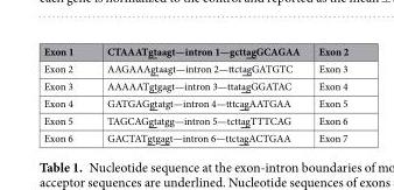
<table><thead><tr><td>Exon 1</td><td>CTAAATgtaagt—intron 1—gcttagGCAGAA</td><td>Exon 2</td></tr></thead><tbody><tr><td>Exon 2</td><td>AAGAAAgtaagt—intron 2—ttctagGATGTC</td><td>Exon 3</td></tr><tr><td>Exon 3</td><td>AAAAATgtgagt—intron 3—ttatagGGATAC</td><td>Exon 4</td></tr><tr><td>Exon 4</td><td>GATGAGgtatgt—intron 4—tttcagAATGAA</td><td>Exon 5</td></tr><tr><td>Exon 5</td><td>TAGCAGgtatgg—intron 5—tcttagTTTCAG</td><td>Exon 6</td></tr><tr><td>Exon 6</td><td>GACTATgtgagt—intron 6—ttctagACTGAA</td><td>Exon 7</td></tr></tbody></table>